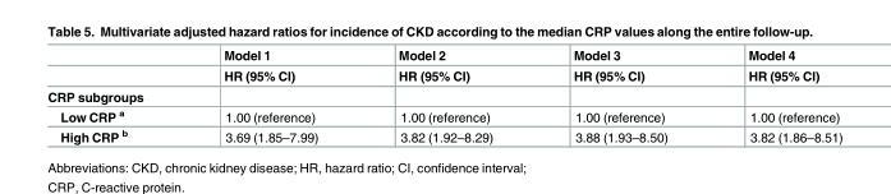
<table><thead><tr><td rowspan="2"></td><td rowspan="2">Model 1 HR (95% CI)</td><td rowspan="2">Model 2 HR (95% CI)</td><td rowspan="2">Model 3 HR (95% CI)</td><td rowspan="2">Model 4 HR (95% CI)</td></tr><tr></tr></thead><tbody><tr><td colspan="5">CRP subgroups</td></tr><tr><td>Low CRP <sup>a</sup></td><td>1.00 (reference)</td><td>1.00 (reference)</td><td>1.00 (reference)</td><td>1.00 (reference)</td></tr><tr><td>High CRP <sup>b</sup></td><td>3.69 (1.85–7.99)</td><td>3.82 (1.92–8.29)</td><td>3.88 (1.93–8.50)</td><td>3.82 (1.86–8.51)</td></tr></tbody></table>